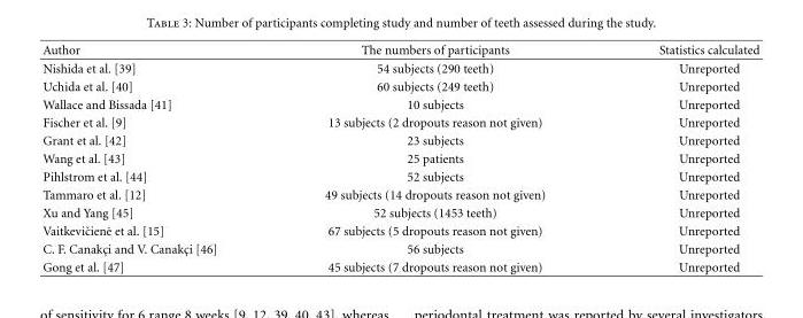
<table><thead><tr><td>Author</td><td>The numbers of participants</td><td>Statistics calculated</td></tr></thead><tbody><tr><td>Nishida et al. [39]</td><td>54 subjects (290 teeth)</td><td>Unreported</td></tr><tr><td>Uchida et al. [40]</td><td>60 subjects (249 teeth)</td><td>Unreported</td></tr><tr><td>Wallace and Bissada [41]</td><td>10 subjects</td><td>Unreported</td></tr><tr><td>Fischer et al. [9]</td><td>13 subjects (2 dropouts reason not given)</td><td>Unreported</td></tr><tr><td>Grant et al. [42]</td><td>23 subjects</td><td>Unreported</td></tr><tr><td>Wang et al. [43]</td><td>25 patients</td><td>Unreported</td></tr><tr><td>Pihlstrom et al. [44]</td><td>52 subjects</td><td>Unreported</td></tr><tr><td>Tammaro et al. [12]</td><td>49 subjects (14 dropouts reason not given)</td><td>Unreported</td></tr><tr><td>Xu and Yang [45]</td><td>52 subjects (1453 teeth)</td><td>Unreported</td></tr><tr><td>Vaitkeviˇcien˙e et al. [15]</td><td>67 subjects (5 dropouts reason not given)</td><td>Unreported</td></tr><tr><td>C. F. Canakc¸i and V. Canakc¸i [46]</td><td>56 subjects</td><td>Unreported</td></tr><tr><td>Gong et al. [47]</td><td>45 subjects (7 dropouts reason not given)</td><td>Unreported</td></tr></tbody></table>